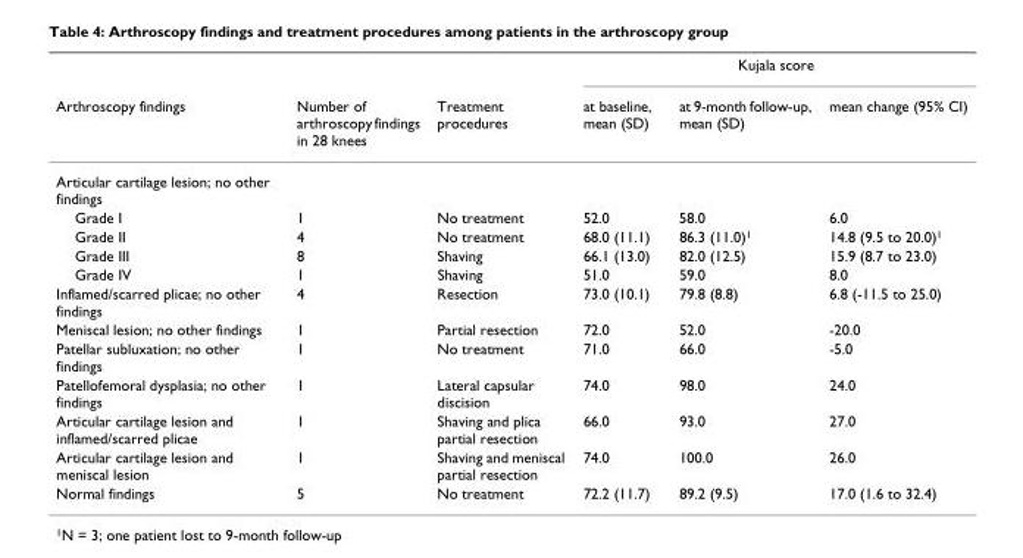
<table><thead><tr><td rowspan="2">Arthroscopy findings</td><td rowspan="2">Number of arthroscopy findings in 28 knees</td><td rowspan="2">Treatment procedures</td><td colspan="3">Kujala score</td></tr><tr><td>at baseline, mean (SD)</td><td>at 9-month follow-up, mean (SD)</td><td>mean change (95% CI)</td></tr></thead><tbody><tr><td colspan="6">Articular cartilage lesion; no other findings</td></tr><tr><td>Grade I</td><td>1</td><td>No treatment</td><td>52.0</td><td>58.0</td><td>6.0</td></tr><tr><td>Grade II</td><td>4</td><td>No treatment</td><td>68.0 (11.1)</td><td>86.3 (11.0)<sup>1</sup></td><td>14.8 (9.5 to 20.0)<sup>1</sup></td></tr><tr><td>Grade III</td><td>8</td><td>Shaving</td><td>66.1 (13.0)</td><td>82.0 (12.5)</td><td>15.9 (8.7 to 23.0)</td></tr><tr><td>Grade IV</td><td>1</td><td>Shaving</td><td>51.0</td><td>59.0</td><td>8.0</td></tr><tr><td>Inflamed/scarred plicae; no other findings</td><td>4</td><td>Resection</td><td>73.0 (10.1)</td><td>79.8 (8.8)</td><td>6.8 (-11.5 to 25.0)</td></tr><tr><td>Meniscal lesion; no other findings</td><td>1</td><td>Partial resection</td><td>72.0</td><td>52.0</td><td>-20.0</td></tr><tr><td>Patellar subluxation; no other findings</td><td>1</td><td>No treatment</td><td>71.0</td><td>66.0</td><td>-5.0</td></tr><tr><td>Patellofemoral dysplasia; no other findings</td><td>1</td><td>Lateral capsular discision</td><td>74.0</td><td>98.0</td><td>24.0</td></tr><tr><td>Articular cartilage lesion and inflamed/scarred plicae</td><td>1</td><td>Shaving and plica partial resection</td><td>66.0</td><td>93.0</td><td>27.0</td></tr><tr><td>Articular cartilage lesion and meniscal lesion</td><td>1</td><td>Shaving and meniscal partial resection</td><td>74.0</td><td>100.0</td><td>26.0</td></tr><tr><td>Normal findings</td><td>5</td><td>No treatment</td><td>72.2 (11.7)</td><td>89.2 (9.5)</td><td>17.0 (1.6 to 32.4)</td></tr></tbody></table>